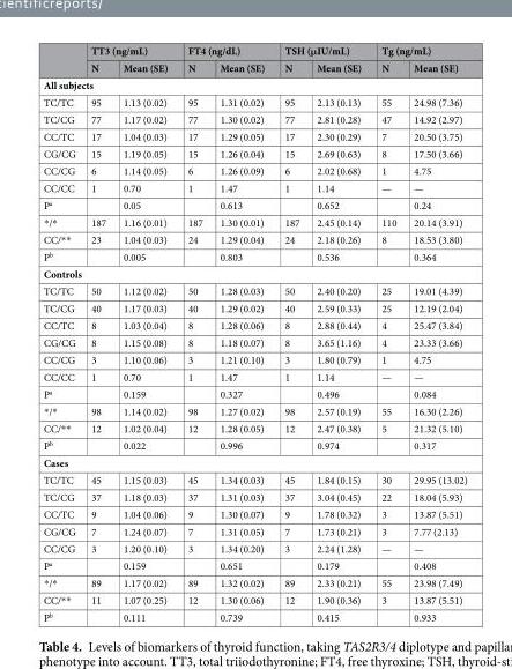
<table><thead><tr><td rowspan="2"></td><td colspan="2">TT3 (ng/mL)</td><td colspan="2">FT4 (ng/dL)</td><td colspan="2">TSH (μIU/mL)</td><td colspan="2">Tg (ng/mL)</td></tr><tr><td>N</td><td>Mean (SE)</td><td>N</td><td>Mean (SE)</td><td>N</td><td>Mean (SE)</td><td>N</td><td>Mean (SE)</td></tr></thead><tbody><tr><td colspan="9">All subjects</td></tr><tr><td>TC/TC</td><td>95</td><td>1.13 (0.02)</td><td>95</td><td>1.31 (0.02)</td><td>95</td><td>2.13 (0.13)</td><td>55</td><td>24.98 (7.36)</td></tr><tr><td>TC/CG</td><td>77</td><td>1.17 (0.02)</td><td>77</td><td>1.30 (0.02)</td><td>77</td><td>2.81 (0.28)</td><td>47</td><td>14.92 (2.97)</td></tr><tr><td>CC/TC</td><td>17</td><td>1.04 (0.03)</td><td>17</td><td>1.29 (0.05)</td><td>17</td><td>2.30 (0.29)</td><td>7</td><td>20.50 (3.75)</td></tr><tr><td>CG/CG</td><td>15</td><td>1.19 (0.05)</td><td>15</td><td>1.26 (0.04)</td><td>15</td><td>2.69 (0.63)</td><td>8</td><td>17.50 (3.66)</td></tr><tr><td>CC/CG</td><td>6</td><td>1.14 (0.05)</td><td>6</td><td>1.26 (0.09)</td><td>6</td><td>2.02 (0.68)</td><td>1</td><td>4.75</td></tr><tr><td>CC/CC</td><td>1</td><td>0.70</td><td>1</td><td>1.47</td><td>1</td><td>1.14</td><td>—</td><td>—</td></tr><tr><td>P<sup>a</sup></td><td></td><td>0.05</td><td></td><td>0.613</td><td></td><td>0.652</td><td></td><td>0.24</td></tr><tr><td>*/*</td><td>187</td><td>1.16 (0.01)</td><td>187</td><td>1.30 (0.01)</td><td>187</td><td>2.45 (0.14)</td><td>110</td><td>20.14 (3.91)</td></tr><tr><td>CC/**</td><td>23</td><td>1.04 (0.03)</td><td>24</td><td>1.29 (0.04)</td><td>24</td><td>2.18 (0.26)</td><td>8</td><td>18.53 (3.80)</td></tr><tr><td>P<sup>b</sup></td><td></td><td>0.005</td><td></td><td>0.803</td><td></td><td>0.536</td><td></td><td>0.364</td></tr><tr><td colspan="9">Controls</td></tr><tr><td>TC/TC</td><td>50</td><td>1.12 (0.02)</td><td>50</td><td>1.28 (0.03)</td><td>50</td><td>2.40 (0.20)</td><td>25</td><td>19.01 (4.39)</td></tr><tr><td>TC/CG</td><td>40</td><td>1.17 (0.03)</td><td>40</td><td>1.29 (0.02)</td><td>40</td><td>2.59 (0.33)</td><td>25</td><td>12.19 (2.04)</td></tr><tr><td>CC/TC</td><td>8</td><td>1.03 (0.04)</td><td>8</td><td>1.28 (0.06)</td><td>8</td><td>2.88 (0.44)</td><td>4</td><td>25.47 (3.84)</td></tr><tr><td>CG/CG</td><td>8</td><td>1.15 (0.08)</td><td>8</td><td>1.18 (0.07)</td><td>8</td><td>3.65 (1.16)</td><td>4</td><td>23.33 (3.66)</td></tr><tr><td>CC/CG</td><td>3</td><td>1.10 (0.06)</td><td>3</td><td>1.21 (0.10)</td><td>3</td><td>1.80 (0.79)</td><td>1</td><td>4.75</td></tr><tr><td>CC/CC</td><td>1</td><td>0.70</td><td>1</td><td>1.47</td><td>1</td><td>1.14</td><td>—</td><td>—</td></tr><tr><td>P<sup>a</sup></td><td></td><td>0.159</td><td></td><td>0.327</td><td></td><td>0.496</td><td></td><td>0.084</td></tr><tr><td>*/*</td><td>98</td><td>1.14 (0.02)</td><td>98</td><td>1.27 (0.02)</td><td>98</td><td>2.57 (0.19)</td><td>55</td><td>16.30 (2.26)</td></tr><tr><td>CC/**</td><td>12</td><td>1.02 (0.04)</td><td>12</td><td>1.28 (0.05)</td><td>12</td><td>2.47 (0.38)</td><td>5</td><td>21.32 (5.10)</td></tr><tr><td>P<sup>b</sup></td><td></td><td>0.022</td><td></td><td>0.996</td><td></td><td>0.974</td><td></td><td>0.317</td></tr><tr><td colspan="9">Cases</td></tr><tr><td>TC/TC</td><td>45</td><td>1.15 (0.03)</td><td>45</td><td>1.34 (0.03)</td><td>45</td><td>1.84 (0.15)</td><td>30</td><td>29.95 (13.02)</td></tr><tr><td>TC/CG</td><td>37</td><td>1.18 (0.03)</td><td>37</td><td>1.31 (0.03)</td><td>37</td><td>3.04 (0.45)</td><td>22</td><td>18.04 (5.93)</td></tr><tr><td>CC/TC</td><td>9</td><td>1.04 (0.06)</td><td>9</td><td>1.30 (0.07)</td><td>9</td><td>1.78 (0.32)</td><td>3</td><td>13.87 (5.51)</td></tr><tr><td>CG/CG</td><td>7</td><td>1.24 (0.07)</td><td>7</td><td>1.31 (0.05)</td><td>7</td><td>1.73 (0.21)</td><td>3</td><td>7.77 (2.13)</td></tr><tr><td>CC/CG</td><td>3</td><td>1.20 (0.10)</td><td>3</td><td>1.34 (0.20)</td><td>3</td><td>2.24 (1.28)</td><td>—</td><td>—</td></tr><tr><td>P<sup>a</sup></td><td></td><td>0.159</td><td></td><td>0.651</td><td></td><td>0.179</td><td></td><td>0.408</td></tr><tr><td>*/*</td><td>89</td><td>1.17 (0.02)</td><td>89</td><td>1.32 (0.02)</td><td>89</td><td>2.33 (0.21)</td><td>55</td><td>23.98 (7.49)</td></tr><tr><td>CC/**</td><td>11</td><td>1.07 (0.25)</td><td>12</td><td>1.30 (0.06)</td><td>12</td><td>1.90 (0.36)</td><td>3</td><td>13.87 (5.51)</td></tr><tr><td>P<sup>b</sup></td><td></td><td>0.111</td><td></td><td>0.739</td><td></td><td>0.415</td><td></td><td>0.933</td></tr></tbody></table>